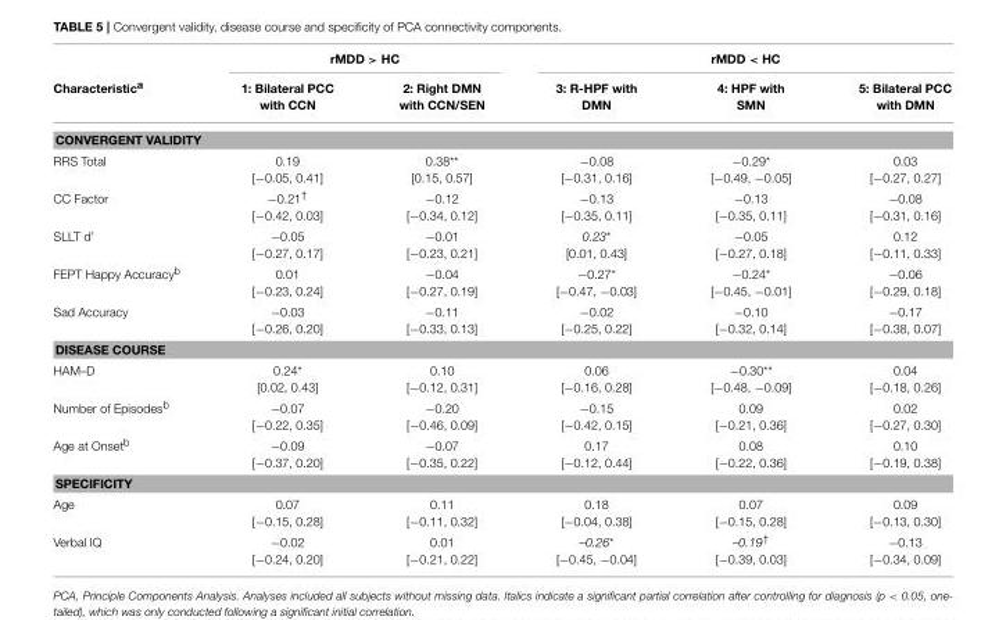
<table><thead><tr><td rowspan="2">Characteristic<sup>a</sup></td><td colspan="2">rMDD &gt; HC</td><td colspan="3">rMDD &lt; HC</td></tr><tr><td>1: Bilateral PCC with CCN</td><td>2: Right DMN with CCN/SEN</td><td>3: R-HPF with DMN</td><td>4: HPF with SMN</td><td>5: Bilateral PCC with DMN</td></tr></thead><tbody><tr><td colspan="6">CONVERGENT VALIDITY</td></tr><tr><td>RRS Total</td><td>0.19 [−0.05, 0.41]</td><td>0.38** [0.15, 0.57]</td><td>−0.08 [−0.31, 0.16]</td><td>−0.29* [−0.49, −0.05]</td><td>0.03 [−0.27, 0.27]</td></tr><tr><td>CC Factor</td><td>−0.21<sup>†</sup> [−0.42, 0.03]</td><td>−0.12 [−0.34, 0.12]</td><td>−0.13 [−0.35, 0.11]</td><td>−0.13 [−0.35, 0.11]</td><td>−0.08 [−0.31, 0.16]</td></tr><tr><td>SLLT d’</td><td>−0.05 [−0.27, 0.17]</td><td>−0.01 [−0.23, 0.21]</td><td>0.23* [0.01, 0.43]</td><td>−0.05 [−0.27, 0.18]</td><td>0.12 [−0.11, 0.33]</td></tr><tr><td>FEPT Happy Accuracy<sup>b</sup></td><td>0.01 [−0.23, 0.24]</td><td>−0.04 [−0.27, 0.19]</td><td>−0.27* [−0.47, −0.03]</td><td>−0.24* [−0.45, −0.01]</td><td>−0.06 [−0.29, 0.18]</td></tr><tr><td>Sad Accuracy</td><td>−0.03 [−0.26, 0.20]</td><td>−0.11 [−0.33, 0.13]</td><td>−0.02 [−0.25, 0.22]</td><td>−0.10 [−0.32, 0.14]</td><td>−0.17 [−0.38, 0.07]</td></tr><tr><td colspan="6">DISEASE COURSE</td></tr><tr><td>HAM–D</td><td>0.24* [0.02, 0.43]</td><td>0.10 [−0.12, 0.31]</td><td>0.06 [−0.16, 0.28]</td><td>−0.30** [−0.48, −0.09]</td><td>0.04 [−0.18, 0.26]</td></tr><tr><td>Number of Episodes<sup>b</sup></td><td>−0.07 [−0.22, 0.35]</td><td>−0.20 [−0.46, 0.09]</td><td>−0.15 [−0.42, 0.15]</td><td>0.09 [−0.21, 0.36]</td><td>0.02 [−0.27, 0.30]</td></tr><tr><td>Age at Onset<sup>b</sup></td><td>−0.09 [−0.37, 0.20]</td><td>−0.07 [−0.35, 0.22]</td><td>0.17 [−0.12, 0.44]</td><td>0.08 [−0.22, 0.36]</td><td>0.10 [−0.19, 0.38]</td></tr><tr><td colspan="6">SPECIFICITY</td></tr><tr><td>Age</td><td>0.07 [−0.15, 0.28]</td><td>0.11 [−0.11, 0.32]</td><td>0.18 [−0.04, 0.38]</td><td>0.07 [−0.15, 0.28]</td><td>0.09 [−0.13, 0.30]</td></tr><tr><td>Verbal IQ</td><td>−0.02 [−0.24, 0.20]</td><td>0.01 [−0.21, 0.22]</td><td>–0.26* [−0.45, −0.04]</td><td>–0.19<sup>†</sup> [−0.39, 0.03]</td><td>−0.13 [−0.34, 0.09]</td></tr></tbody></table>